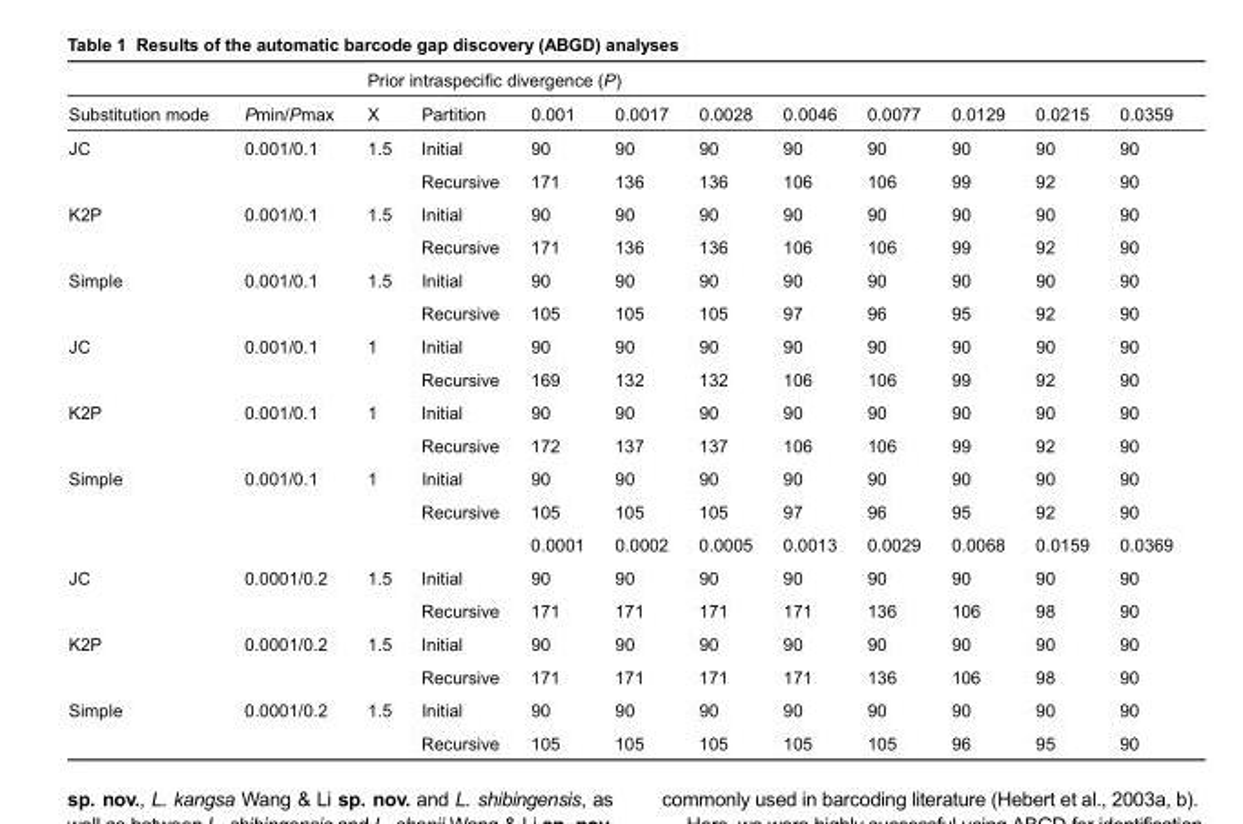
<table><thead><tr><td rowspan="2">Substitution mode</td><td rowspan="2">Pmin/Pmax</td><td colspan="10">Prior intraspecific divergence (P)</td></tr><tr><td>X</td><td>Partition</td><td>0.001</td><td>0.0017</td><td>0.0028</td><td>0.0046</td><td>0.0077</td><td>0.0129</td><td>0.0215</td><td>0.0359</td></tr></thead><tbody><tr><td rowspan="2">JC</td><td>0.001/0.1</td><td>1.5</td><td>Initial</td><td>90</td><td>90</td><td>90</td><td>90</td><td>90</td><td>90</td><td>90</td><td>90</td></tr><tr><td></td><td></td><td>Recursive</td><td>171</td><td>136</td><td>136</td><td>106</td><td>106</td><td>99</td><td>92</td><td>90</td></tr><tr><td rowspan="2">K2P</td><td>0.001/0.1</td><td>1.5</td><td>Initial</td><td>90</td><td>90</td><td>90</td><td>90</td><td>90</td><td>90</td><td>90</td><td>90</td></tr><tr><td></td><td></td><td>Recursive</td><td>171</td><td>136</td><td>136</td><td>106</td><td>106</td><td>99</td><td>92</td><td>90</td></tr><tr><td rowspan="2">Simple</td><td>0.001/0.1</td><td>1.5</td><td>Initial</td><td>90</td><td>90</td><td>90</td><td>90</td><td>90</td><td>90</td><td>90</td><td>90</td></tr><tr><td></td><td></td><td>Recursive</td><td>105</td><td>105</td><td>105</td><td>97</td><td>96</td><td>95</td><td>92</td><td>90</td></tr><tr><td rowspan="2">JC</td><td>0.001/0.1</td><td>1</td><td>Initial</td><td>90</td><td>90</td><td>90</td><td>90</td><td>90</td><td>90</td><td>90</td><td>90</td></tr><tr><td></td><td></td><td>Recursive</td><td>169</td><td>132</td><td>132</td><td>106</td><td>106</td><td>99</td><td>92</td><td>90</td></tr><tr><td rowspan="2">K2P</td><td>0.001/0.1</td><td>1</td><td>Initial</td><td>90</td><td>90</td><td>90</td><td>90</td><td>90</td><td>90</td><td>90</td><td>90</td></tr><tr><td></td><td></td><td>Recursive</td><td>172</td><td>137</td><td>137</td><td>106</td><td>106</td><td>99</td><td>92</td><td>90</td></tr><tr><td rowspan="3">Simple</td><td>0.001/0.1</td><td>1</td><td>Initial</td><td>90</td><td>90</td><td>90</td><td>90</td><td>90</td><td>90</td><td>90</td><td>90</td></tr><tr><td></td><td></td><td>Recursive</td><td>105</td><td>105</td><td>105</td><td>97</td><td>96</td><td>95</td><td>92</td><td>90</td></tr><tr><td></td><td></td><td></td><td>0.0001</td><td>0.0002</td><td>0.0005</td><td>0.0013</td><td>0.0029</td><td>0.0068</td><td>0.0159</td><td>0.0369</td></tr><tr><td rowspan="2">JC</td><td>0.0001/0.2</td><td>1.5</td><td>Initial</td><td>90</td><td>90</td><td>90</td><td>90</td><td>90</td><td>90</td><td>90</td><td>90</td></tr><tr><td></td><td></td><td>Recursive</td><td>171</td><td>171</td><td>171</td><td>171</td><td>136</td><td>106</td><td>98</td><td>90</td></tr><tr><td rowspan="2">K2P</td><td>0.0001/0.2</td><td>1.5</td><td>Initial</td><td>90</td><td>90</td><td>90</td><td>90</td><td>90</td><td>90</td><td>90</td><td>90</td></tr><tr><td></td><td></td><td>Recursive</td><td>171</td><td>171</td><td>171</td><td>171</td><td>136</td><td>106</td><td>98</td><td>90</td></tr><tr><td rowspan="2">Simple</td><td>0.0001/0.2</td><td>1.5</td><td>Initial</td><td>90</td><td>90</td><td>90</td><td>90</td><td>90</td><td>90</td><td>90</td><td>90</td></tr><tr><td></td><td></td><td>Recursive</td><td>105</td><td>105</td><td>105</td><td>105</td><td>105</td><td>96</td><td>95</td><td>90</td></tr></tbody></table>